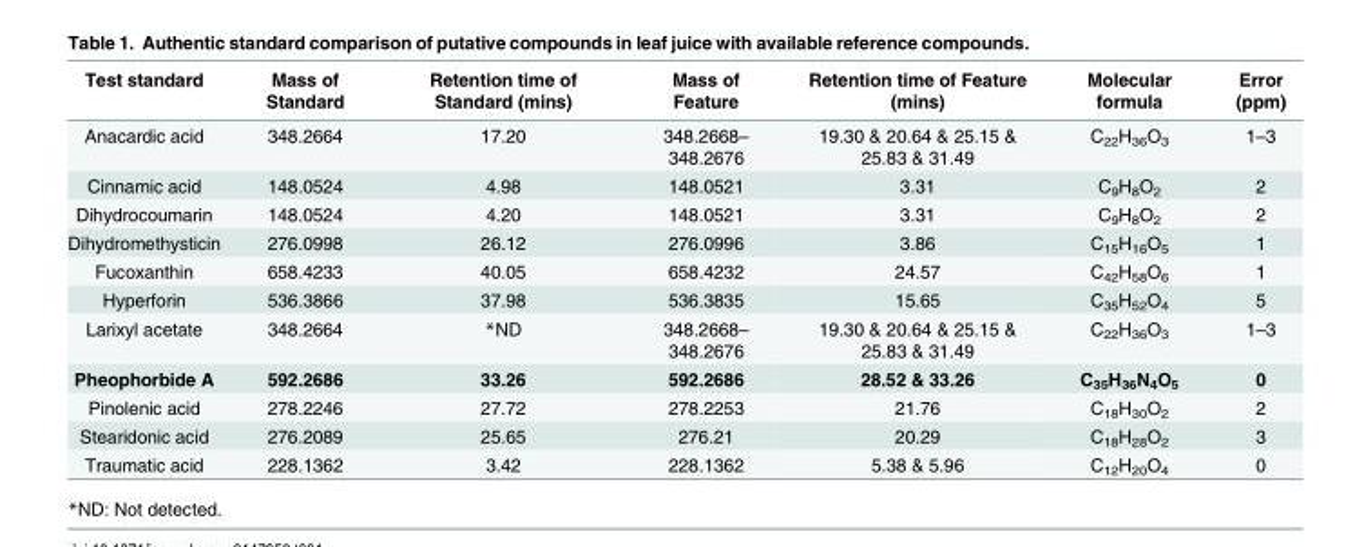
<table><thead><tr><td>Test standard</td><td>Mass of Standard</td><td>Retention time of Standard (mins)</td><td>Mass of Feature</td><td>Retention time of Feature (mins)</td><td>Molecular formula</td><td>Error (ppm)</td></tr></thead><tbody><tr><td>Anacardic acid</td><td>348.2664</td><td>17.20</td><td>348.2668– 348.2676</td><td>19.30 &amp; 20.64 &amp; 25.15 &amp; 25.83 &amp; 31.49</td><td>C<sub>22</sub>H<sub>36</sub>O<sub>3</sub></td><td>1–3</td></tr><tr><td>Cinnamic acid</td><td>148.0524</td><td>4.98</td><td>148.0521</td><td>3.31</td><td>C<sub>9</sub>H<sub>8</sub>O<sub>2</sub></td><td>2</td></tr><tr><td>Dihydrocoumarin</td><td>148.0524</td><td>4.20</td><td>148.0521</td><td>3.31</td><td>C<sub>9</sub>H<sub>8</sub>O<sub>2</sub></td><td>2</td></tr><tr><td>Dihydromethysticin</td><td>276.0998</td><td>26.12</td><td>276.0996</td><td>3.86</td><td>C<sub>15</sub>H<sub>16</sub>O<sub>5</sub></td><td>1</td></tr><tr><td>Fucoxanthin</td><td>658.4233</td><td>40.05</td><td>658.4232</td><td>24.57</td><td>C<sub>42</sub>H<sub>58</sub>O<sub>6</sub></td><td>1</td></tr><tr><td>Hyperforin</td><td>536.3866</td><td>37.98</td><td>536.3835</td><td>15.65</td><td>C<sub>35</sub>H<sub>52</sub>O<sub>4</sub></td><td>5</td></tr><tr><td>Larixyl acetate</td><td>348.2664</td><td>*ND</td><td>348.2668– 348.2676</td><td>19.30 &amp; 20.64 &amp; 25.15 &amp; 25.83 &amp; 31.49</td><td>C<sub>22</sub>H<sub>36</sub>O<sub>3</sub></td><td>1–3</td></tr><tr><td>Pheophorbide A</td><td>592.2686</td><td>33.26</td><td>592.2686</td><td>28.52 &amp; 33.26</td><td>C<sub>35</sub>H<sub>36</sub>N<sub>4</sub>O<sub>5</sub></td><td>0</td></tr><tr><td>Pinolenic acid</td><td>278.2246</td><td>27.72</td><td>278.2253</td><td>21.76</td><td>C<sub>18</sub>H<sub>30</sub>O<sub>2</sub></td><td>2</td></tr><tr><td>Stearidonic acid</td><td>276.2089</td><td>25.65</td><td>276.21</td><td>20.29</td><td>C<sub>18</sub>H<sub>28</sub>O<sub>2</sub></td><td>3</td></tr><tr><td>Traumatic acid</td><td>228.1362</td><td>3.42</td><td>228.1362</td><td>5.38 &amp; 5.96</td><td>C<sub>12</sub>H<sub>20</sub>O<sub>4</sub></td><td>0</td></tr></tbody></table>